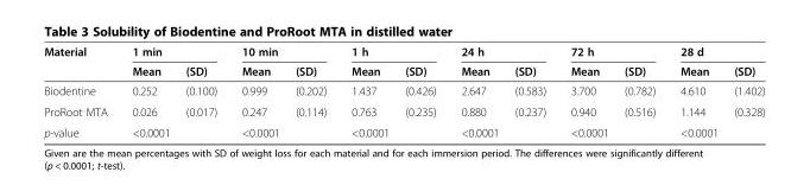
<table><thead><tr><td rowspan="2">Material</td><td colspan="2">1 min</td><td colspan="2">10 min</td><td colspan="2">1 h</td><td colspan="2">24 h</td><td colspan="2">72 h</td><td colspan="2">28 d</td></tr><tr><td>Mean</td><td>(SD)</td><td>Mean</td><td>(SD)</td><td>Mean</td><td>(SD)</td><td>Mean</td><td>(SD)</td><td>Mean</td><td>(SD)</td><td>Mean</td><td>(SD)</td></tr></thead><tbody><tr><td>Biodentine</td><td>0.252</td><td>(0.100)</td><td>0.999</td><td>(0.202)</td><td>1.437</td><td>(0.426)</td><td>2.647</td><td>(0.583)</td><td>3.700</td><td>(0.782)</td><td>4.610</td><td>(1.402)</td></tr><tr><td>ProRoot MTA</td><td>0.026</td><td>(0.017)</td><td>0.247</td><td>(0.114)</td><td>0.763</td><td>(0.235)</td><td>0.880</td><td>(0.237)</td><td>0.940</td><td>(0.516)</td><td>1.144</td><td>(0.328)</td></tr><tr><td>p-value</td><td colspan="2">&lt;0.0001</td><td colspan="2">&lt;0.0001</td><td colspan="2">&lt;0.0001</td><td colspan="2">&lt;0.0001</td><td colspan="2">&lt;0.0001</td><td colspan="2">&lt;0.0001</td></tr></tbody></table>